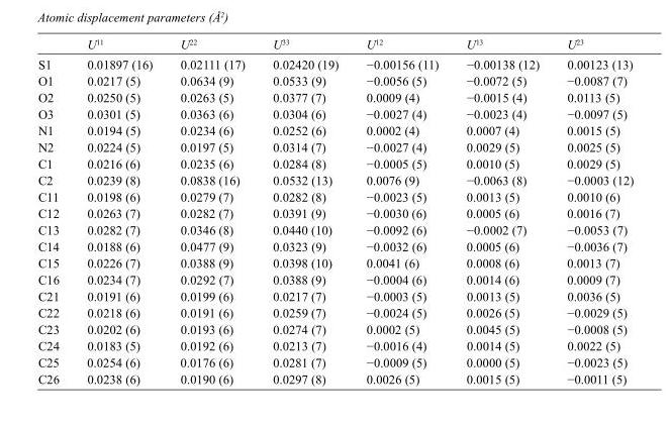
<table><thead><tr><td></td><td>U<sup>11</sup></td><td>U<sup>22</sup></td><td>U<sup>33</sup></td><td>U<sup>12</sup></td><td>U<sup>13</sup></td><td>U<sup>23</sup></td></tr></thead><tbody><tr><td>S1</td><td>0.01897 (16)</td><td>0.02111 (17)</td><td>0.02420 (19)</td><td>−0.00156 (11)</td><td>−0.00138 (12)</td><td>0.00123 (13)</td></tr><tr><td>O1</td><td>0.0217 (5)</td><td>0.0634 (9)</td><td>0.0533 (9)</td><td>−0.0056 (5)</td><td>−0.0072 (5)</td><td>−0.0087 (7)</td></tr><tr><td>O2</td><td>0.0250 (5)</td><td>0.0263 (5)</td><td>0.0377 (7)</td><td>0.0009 (4)</td><td>−0.0015 (4)</td><td>0.0113 (5)</td></tr><tr><td>O3</td><td>0.0301 (5)</td><td>0.0363 (6)</td><td>0.0304 (6)</td><td>−0.0027 (4)</td><td>−0.0023 (4)</td><td>−0.0097 (5)</td></tr><tr><td>N1</td><td>0.0194 (5)</td><td>0.0234 (6)</td><td>0.0252 (6)</td><td>0.0002 (4)</td><td>0.0007 (4)</td><td>0.0015 (5)</td></tr><tr><td>N2</td><td>0.0224 (5)</td><td>0.0197 (5)</td><td>0.0314 (7)</td><td>−0.0027 (4)</td><td>0.0029 (5)</td><td>0.0025 (5)</td></tr><tr><td>C1</td><td>0.0216 (6)</td><td>0.0235 (6)</td><td>0.0284 (8)</td><td>−0.0005 (5)</td><td>0.0010 (5)</td><td>0.0029 (5)</td></tr><tr><td>C2</td><td>0.0239 (8)</td><td>0.0838 (16)</td><td>0.0532 (13)</td><td>0.0076 (9)</td><td>−0.0063 (8)</td><td>−0.0003 (12)</td></tr><tr><td>C11</td><td>0.0198 (6)</td><td>0.0279 (7)</td><td>0.0282 (8)</td><td>−0.0023 (5)</td><td>0.0013 (5)</td><td>0.0010 (6)</td></tr><tr><td>C12</td><td>0.0263 (7)</td><td>0.0282 (7)</td><td>0.0391 (9)</td><td>−0.0030 (6)</td><td>0.0005 (6)</td><td>0.0016 (7)</td></tr><tr><td>C13</td><td>0.0282 (7)</td><td>0.0346 (8)</td><td>0.0440 (10)</td><td>−0.0092 (6)</td><td>−0.0002 (7)</td><td>−0.0053 (7)</td></tr><tr><td>C14</td><td>0.0188 (6)</td><td>0.0477 (9)</td><td>0.0323 (9)</td><td>−0.0032 (6)</td><td>0.0005 (6)</td><td>−0.0036 (7)</td></tr><tr><td>C15</td><td>0.0226 (7)</td><td>0.0388 (9)</td><td>0.0398 (10)</td><td>0.0041 (6)</td><td>0.0008 (6)</td><td>0.0013 (7)</td></tr><tr><td>C16</td><td>0.0234 (7)</td><td>0.0292 (7)</td><td>0.0388 (9)</td><td>−0.0004 (6)</td><td>0.0014 (6)</td><td>0.0009 (7)</td></tr><tr><td>C21</td><td>0.0191 (6)</td><td>0.0199 (6)</td><td>0.0217 (7)</td><td>−0.0003 (5)</td><td>0.0013 (5)</td><td>0.0036 (5)</td></tr><tr><td>C22</td><td>0.0218 (6)</td><td>0.0191 (6)</td><td>0.0259 (7)</td><td>−0.0024 (5)</td><td>0.0026 (5)</td><td>−0.0029 (5)</td></tr><tr><td>C23</td><td>0.0202 (6)</td><td>0.0193 (6)</td><td>0.0274 (7)</td><td>0.0002 (5)</td><td>0.0045 (5)</td><td>−0.0008 (5)</td></tr><tr><td>C24</td><td>0.0183 (5)</td><td>0.0192 (6)</td><td>0.0213 (7)</td><td>−0.0016 (4)</td><td>0.0014 (5)</td><td>0.0022 (5)</td></tr><tr><td>C25</td><td>0.0254 (6)</td><td>0.0176 (6)</td><td>0.0281 (7)</td><td>−0.0009 (5)</td><td>0.0000 (5)</td><td>−0.0023 (5)</td></tr><tr><td>C26</td><td>0.0238 (6)</td><td>0.0190 (6)</td><td>0.0297 (8)</td><td>0.0026 (5)</td><td>0.0015 (5)</td><td>−0.0011 (5)</td></tr></tbody></table>